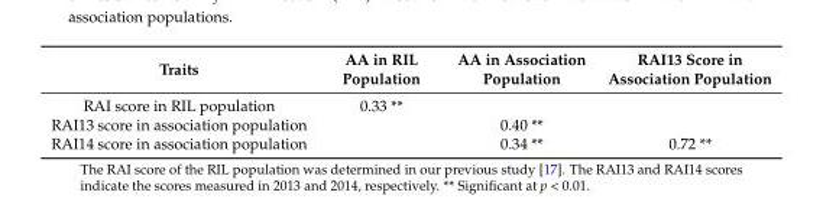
<table><thead><tr><td>Traits</td><td>AA in RIL Population</td><td>AA in Association Population</td><td>RAI13 Score in Association Population</td></tr></thead><tbody><tr><td>RAI score in RIL population</td><td>0.33 **</td><td></td><td></td></tr><tr><td>RAI13 score in association population</td><td></td><td>0.40 **</td><td></td></tr><tr><td>RAI14 score in association population</td><td></td><td>0.34 **</td><td>0.72 **</td></tr></tbody></table>